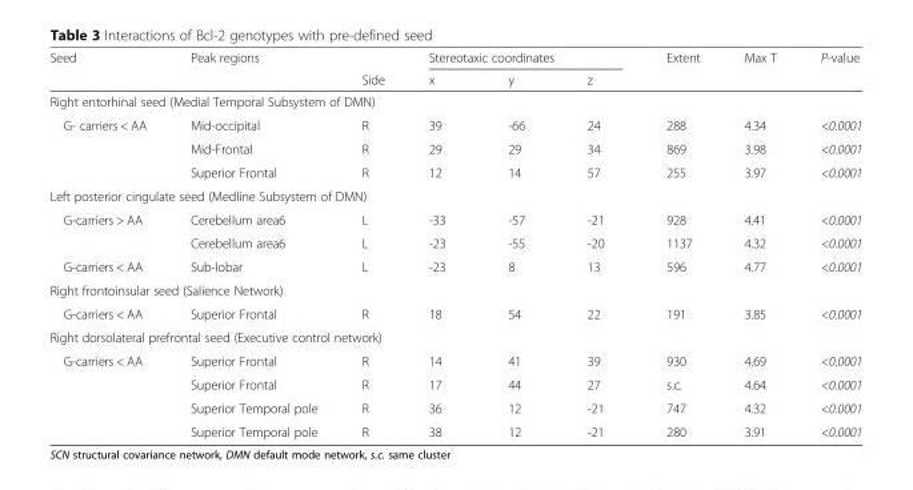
<table><thead><tr><td rowspan="2">Seed</td><td rowspan="2">Peak regions</td><td rowspan="2">Side</td><td colspan="3">Stereotaxic coordinates</td><td rowspan="2">Extent</td><td rowspan="2">Max T</td><td rowspan="2">P-value</td></tr><tr><td>x</td><td>y</td><td>z</td></tr></thead><tbody><tr><td colspan="9">Right entorhinal seed (Medial Temporal Subsystem of DMN)</td></tr><tr><td rowspan="3">G- carriers &lt; AA</td><td>Mid-occipital</td><td>R</td><td>39</td><td>-66</td><td>24</td><td>288</td><td>4.34</td><td>&lt;0.0001</td></tr><tr><td>Mid-Frontal</td><td>R</td><td>29</td><td>29</td><td>34</td><td>869</td><td>3.98</td><td>&lt;0.0001</td></tr><tr><td>Superior Frontal</td><td>R</td><td>12</td><td>14</td><td>57</td><td>255</td><td>3.97</td><td>&lt;0.0001</td></tr><tr><td colspan="9">Left posterior cingulate seed (Medline Subsystem of DMN)</td></tr><tr><td rowspan="2">G-carriers &gt; AA</td><td>Cerebellum area6</td><td>L</td><td>-33</td><td>-57</td><td>-21</td><td>928</td><td>4.41</td><td>&lt;0.0001</td></tr><tr><td>Cerebellum area6</td><td>L</td><td>-23</td><td>-55</td><td>-20</td><td>1137</td><td>4.32</td><td>&lt;0.0001</td></tr><tr><td>G-carriers &lt; AA</td><td>Sub-lobar</td><td>L</td><td>-23</td><td>8</td><td>13</td><td>596</td><td>4.77</td><td>&lt;0.0001</td></tr><tr><td colspan="9">Right frontoinsular seed (Salience Network)</td></tr><tr><td>G-carriers &lt; AA</td><td>Superior Frontal</td><td>R</td><td>18</td><td>54</td><td>22</td><td>191</td><td>3.85</td><td>&lt;0.0001</td></tr><tr><td colspan="9">Right dorsolateral prefrontal seed (Executive control network)</td></tr><tr><td rowspan="4">G-carriers &lt; AA</td><td>Superior Frontal</td><td>R</td><td>14</td><td>41</td><td>39</td><td>930</td><td>4.69</td><td>&lt;0.0001</td></tr><tr><td>Superior Frontal</td><td>R</td><td>17</td><td>44</td><td>27</td><td>s.c.</td><td>4.64</td><td>&lt;0.0001</td></tr><tr><td>Superior Temporal pole</td><td>R</td><td>36</td><td>12</td><td>-21</td><td>747</td><td>4.32</td><td>&lt;0.0001</td></tr><tr><td>Superior Temporal pole</td><td>R</td><td>38</td><td>12</td><td>-21</td><td>280</td><td>3.91</td><td>&lt;0.0001</td></tr></tbody></table>